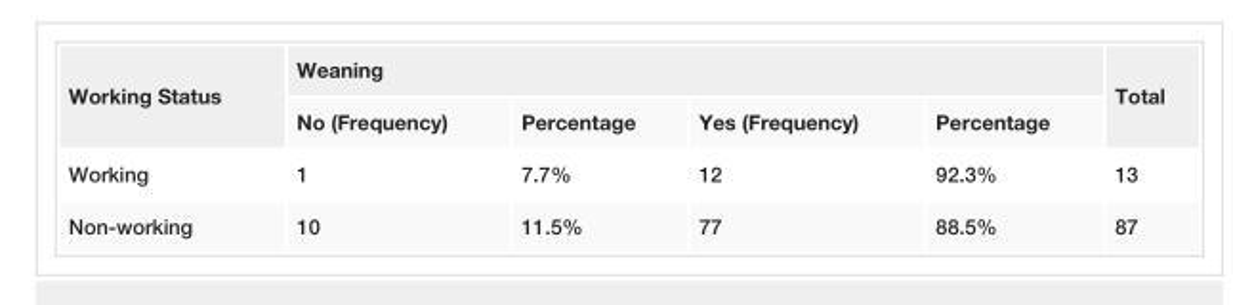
<table><tbody><tr><td rowspan="2">Working Status</td><td colspan="4">Weaning</td><td rowspan="2">Total</td></tr><tr><td>No (Frequency)</td><td>Percentage</td><td>Yes (Frequency)</td><td>Percentage</td></tr><tr><td>Working</td><td>1</td><td>7.7%</td><td>12</td><td>92.3%</td><td>13</td></tr><tr><td>Non-working</td><td>10</td><td>11.5%</td><td>77</td><td>88.5%</td><td>87</td></tr></tbody></table>